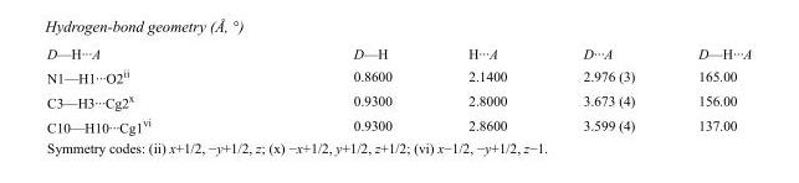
<table><tbody><tr><td>D—H···A</td><td>D—H</td><td>H···A</td><td>D···A</td><td>D—H···A</td></tr><tr><td>N1—H1···O2<sup>ii</sup></td><td>0.8600</td><td>2.1400</td><td>2.976 (3)</td><td>165.00</td></tr><tr><td>C3—H3···Cg2<sup>x</sup></td><td>0.9300</td><td>2.8000</td><td>3.673 (4)</td><td>156.00</td></tr><tr><td>C10—H10···Cg1<sup>vi</sup></td><td>0.9300</td><td>2.8600</td><td>3.599 (4)</td><td>137.00</td></tr></tbody></table>